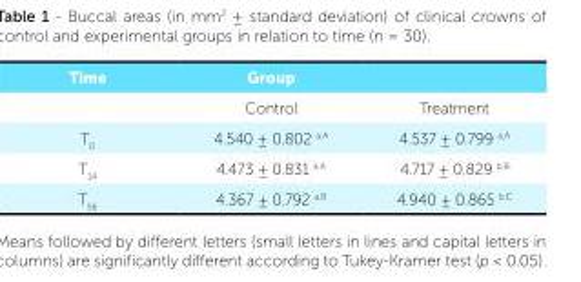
<table><thead><tr><td rowspan="2">Time</td><td rowspan="2">Group Control</td><td rowspan="2">Treatment</td></tr><tr></tr></thead><tbody><tr><td>T<sub>0</sub></td><td>4.540 ± 0.802 <sup>a,A</sup></td><td>4.537 ± 0.799 <sup>a,A</sup></td></tr><tr><td>T<sub>14</sub></td><td>4.473 ± 0.831 <sup>a,A</sup></td><td>4.717 ± 0.829 <sup>b,B</sup></td></tr><tr><td>T<sub>56</sub></td><td>4.367 ± 0.792 <sup>a,B</sup></td><td>4.940 ± 0.865 <sup>b,C</sup></td></tr></tbody></table>